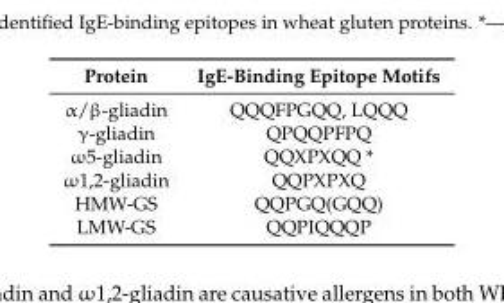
<table><thead><tr><td>Protein</td><td>IgE-Binding Epitope Motifs</td></tr></thead><tbody><tr><td>α/β-gliadin</td><td>QQQFPGQQ, LQQQ</td></tr><tr><td>γ-gliadin</td><td>QPQQPFPQ</td></tr><tr><td>ω5-gliadin</td><td>QQXPXQQ *</td></tr><tr><td>ω1,2-gliadin</td><td>QQPXPXQ</td></tr><tr><td>HMW-GS</td><td>QQPGQ(GQQ)</td></tr><tr><td>LMW-GS</td><td>QQPIQQQP</td></tr></tbody></table>